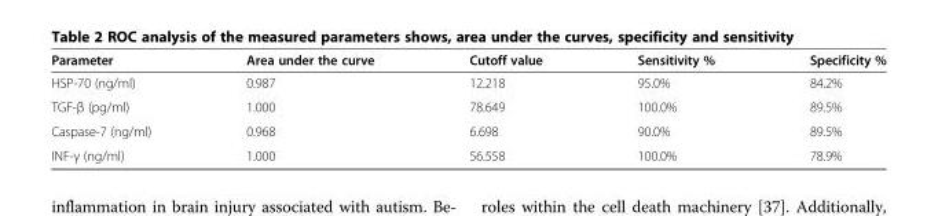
<table><thead><tr><td>Parameter</td><td>Area under the curve</td><td>Cutoff value</td><td>Sensitivity %</td><td>Specificity %</td></tr></thead><tbody><tr><td>HSP-70 (ng/ml)</td><td>0.987</td><td>12.218</td><td>95.0%</td><td>84.2%</td></tr><tr><td>TGF-β (pg/ml)</td><td>1.000</td><td>78.649</td><td>100.0%</td><td>89.5%</td></tr><tr><td>Caspase-7 (ng/ml)</td><td>0.968</td><td>6.698</td><td>90.0%</td><td>89.5%</td></tr><tr><td>INF-γ (ng/ml)</td><td>1.000</td><td>56.558</td><td>100.0%</td><td>78.9%</td></tr></tbody></table>